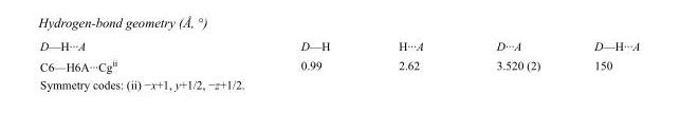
<table><tbody><tr><td>D—H···A</td><td>D—H</td><td>H···A</td><td>D···A</td><td>D—H···A</td></tr><tr><td>C6—H6A···Cg<sup>ii</sup></td><td>0.99</td><td>2.62</td><td>3.520 (2)</td><td>150</td></tr></tbody></table>